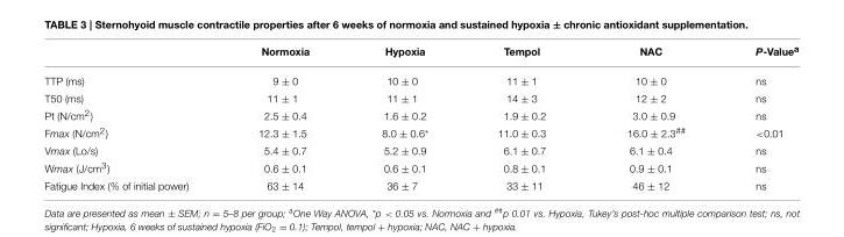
<table><thead><tr><td></td><td>Normoxia</td><td>Hypoxia</td><td>Tempol</td><td>NAC</td><td>P-Value<sup>a</sup></td></tr></thead><tbody><tr><td>TTP (ms)</td><td>9 ± 0</td><td>10 ± 0</td><td>11 ± 1</td><td>10 ± 0</td><td>ns</td></tr><tr><td>T50 (ms)</td><td>11 ± 1</td><td>11 ± 1</td><td>14 ± 3</td><td>12 ± 2</td><td>ns</td></tr><tr><td>Pt (N/cm<sup>2</sup>)</td><td>2.5 ± 0.4</td><td>1.6 ± 0.2</td><td>1.9 ± 0.2</td><td>3.0 ± 0.9</td><td>ns</td></tr><tr><td>Fmax (N/cm<sup>2</sup>)</td><td>12.3 ± 1.5</td><td>8.0 ± 0.6*</td><td>11.0 ± 0.3</td><td>16.0 ± 2.3<sup>##</sup></td><td>&lt;0.01</td></tr><tr><td>Vmax (Lo/s)</td><td>5.4 ± 0.7</td><td>5.2 ± 0.9</td><td>6.1 ± 0.7</td><td>6.1 ± 0.4</td><td>ns</td></tr><tr><td>Wmax (J/cm<sup>3</sup>)</td><td>0.6 ± 0.1</td><td>0.6 ± 0.1</td><td>0.8 ± 0.1</td><td>0.9 ± 0.1</td><td>ns</td></tr><tr><td>Fatigue Index (% of initial power)</td><td>63 ± 14</td><td>36 ± 7</td><td>33 ± 11</td><td>46 ± 12</td><td>ns</td></tr></tbody></table>